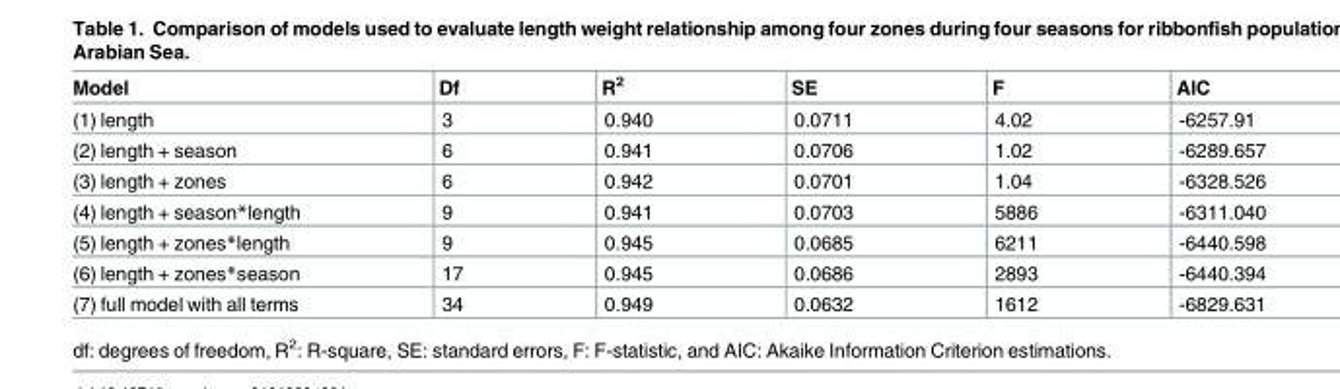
<table><thead><tr><td>Model</td><td>Df</td><td>R<sup>2</sup></td><td>SE</td><td>F</td><td>AIC</td></tr></thead><tbody><tr><td>(1) length</td><td>3</td><td>0.940</td><td>0.0711</td><td>4.02</td><td>-6257.91</td></tr><tr><td>(2) length + season</td><td>6</td><td>0.941</td><td>0.0706</td><td>1.02</td><td>-6289.657</td></tr><tr><td>(3) length + zones</td><td>6</td><td>0.942</td><td>0.0701</td><td>1.04</td><td>-6328.526</td></tr><tr><td>(4) length + season*length</td><td>9</td><td>0.941</td><td>0.0703</td><td>5886</td><td>-6311.040</td></tr><tr><td>(5) length + zones*length</td><td>9</td><td>0.945</td><td>0.0685</td><td>6211</td><td>-6440.598</td></tr><tr><td>(6) length + zones*season</td><td>17</td><td>0.945</td><td>0.0686</td><td>2893</td><td>-6440.394</td></tr><tr><td>(7) full model with all terms</td><td>34</td><td>0.949</td><td>0.0632</td><td>1612</td><td>-6829.631</td></tr></tbody></table>